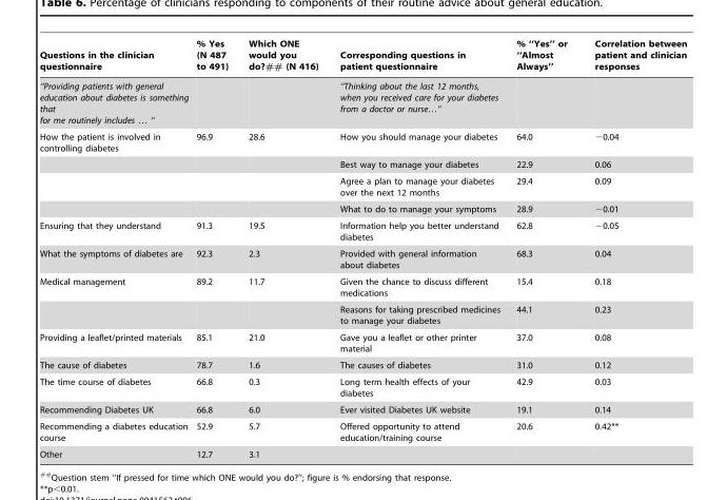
<table><thead><tr><td>Questions in the clinician questionnaire</td><td>% Yes (N 487 to 491)</td><td>Which ONE would you do?## (N 416)</td><td>Corresponding questions in patient questionnaire</td><td>% ‘‘Yes’’ or ‘‘Almost Always’’</td><td>Correlation between patient and clinician responses</td></tr></thead><tbody><tr><td>‘‘Providing patients with general education about diabetes is something that for me routinely includes … ‘‘</td><td></td><td></td><td>‘‘Thinking about the last 12 months, when you received care for your diabetes from a doctor or nurse…’’</td><td></td><td></td></tr><tr><td rowspan="4">How the patient is involved in controlling diabetes</td><td>96.9</td><td>28.6</td><td>How you should manage your diabetes</td><td>64.0</td><td>−0.04</td></tr><tr><td></td><td></td><td>Best way to manage your diabetes</td><td>22.9</td><td>0.06</td></tr><tr><td></td><td></td><td>Agree a plan to manage your diabetes over the next 12 months</td><td>29.4</td><td>0.09</td></tr><tr><td></td><td></td><td>What to do to manage your symptoms</td><td>28.9</td><td>−0.01</td></tr><tr><td>Ensuring that they understand</td><td>91.3</td><td>19.5</td><td>Information help you better understand diabetes</td><td>62.8</td><td>−0.05</td></tr><tr><td>What the symptoms of diabetes are</td><td>92.3</td><td>2.3</td><td>Provided with general information about diabetes</td><td>68.3</td><td>0.04</td></tr><tr><td rowspan="2">Medical management</td><td>89.2</td><td>11.7</td><td>Given the chance to discuss different medications</td><td>15.4</td><td>0.18</td></tr><tr><td></td><td></td><td>Reasons for taking prescribed medicines to manage your diabetes</td><td>44.1</td><td>0.23</td></tr><tr><td>Providing a leaflet/printed materials</td><td>85.1</td><td>21.0</td><td>Gave you a leaflet or other printer material</td><td>37.0</td><td>0.08</td></tr><tr><td>The cause of diabetes</td><td>78.7</td><td>1.6</td><td>The causes of diabetes</td><td>31.0</td><td>0.12</td></tr><tr><td>The time course of diabetes</td><td>66.8</td><td>0.3</td><td>Long term health effects of your diabetes</td><td>42.9</td><td>0.03</td></tr><tr><td>Recommending Diabetes UK</td><td>66.8</td><td>6.0</td><td>Ever visited Diabetes UK website</td><td>19.1</td><td>0.14</td></tr><tr><td>Recommending a diabetes education course</td><td>52.9</td><td>5.7</td><td>Offered opportunity to attend education/training course</td><td>20.6</td><td>0.42**</td></tr><tr><td>Other</td><td>12.7</td><td>3.1</td><td></td><td></td><td></td></tr></tbody></table>